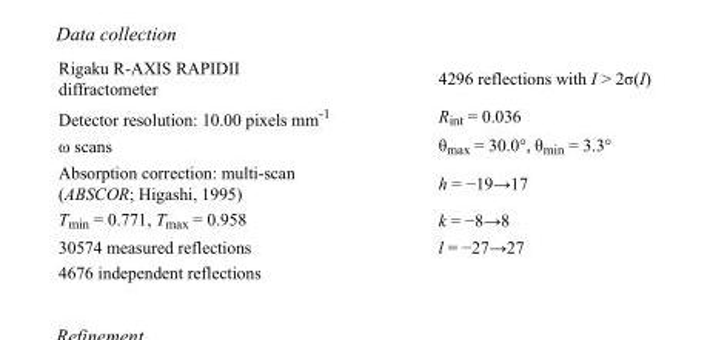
<table><tbody><tr><td>Rigaku R-AXIS RAPIDII diffractometer</td><td>4296 reflections with I &gt; 2σ(I)</td></tr><tr><td>Detector resolution: 10.00 pixels mm<sup>-1</sup></td><td>R<sub>int</sub> = 0.036</td></tr><tr><td>ω scans</td><td>θ<sub>max</sub> = 30.0°, θ<sub>min</sub> = 3.3°</td></tr><tr><td>Absorption correction: multi-scan (ABSCOR; Higashi, 1995)</td><td>h = −19→17</td></tr><tr><td>T<sub>min</sub> = 0.771, T<sub>max</sub> = 0.958</td><td>k = −8→8</td></tr><tr><td>30574 measured reflections</td><td>l = −27→27</td></tr><tr><td>4676 independent reflections</td><td></td></tr></tbody></table>